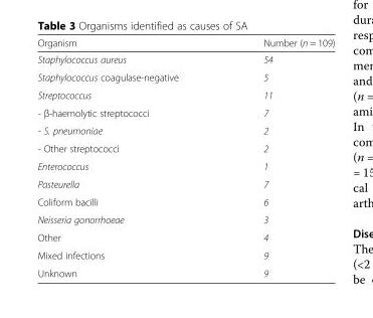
<table><thead><tr><td>Organism</td><td>Number (n = 109)</td></tr></thead><tbody><tr><td>Staphylococcus aureus</td><td>54</td></tr><tr><td>Staphylococcus coagulase-negative</td><td>5</td></tr><tr><td>Streptococcus</td><td>11</td></tr><tr><td>- β-haemolytic streptococci</td><td>7</td></tr><tr><td>- S. pneumoniae</td><td>2</td></tr><tr><td>- Other streptococci</td><td>2</td></tr><tr><td>Enterococcus</td><td>1</td></tr><tr><td>Pasteurella</td><td>7</td></tr><tr><td>Coliform bacilli</td><td>6</td></tr><tr><td>Neisseria gonorrhoeae</td><td>3</td></tr><tr><td>Other</td><td>4</td></tr><tr><td>Mixed infections</td><td>9</td></tr><tr><td>Unknown</td><td>9</td></tr></tbody></table>